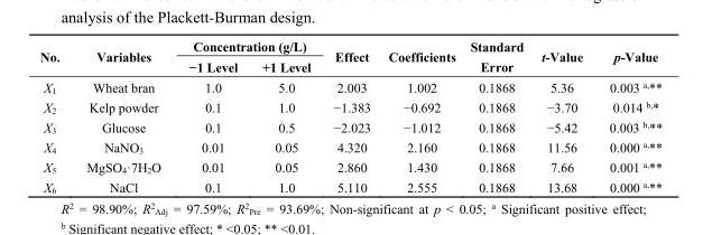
<table><thead><tr><td rowspan="2">No.</td><td rowspan="2">Variables</td><td colspan="2">Concentration (g/L)</td><td rowspan="2">Effect</td><td rowspan="2">Coefficients</td><td rowspan="2">Standard Error</td><td rowspan="2">t-Value</td><td rowspan="2">p-Value</td></tr><tr><td>−1 Level</td><td>+1 Level</td></tr></thead><tbody><tr><td>X<sub>1</sub></td><td>Wheat bran</td><td>1.0</td><td>5.0</td><td>2.003</td><td>1.002</td><td>0.1868</td><td>5.36</td><td>0.003 <sup>a,</sup>**</td></tr><tr><td>X<sub>2</sub></td><td>Kelp powder</td><td>0.1</td><td>1.0</td><td>−1.383</td><td>−0.692</td><td>0.1868</td><td>−3.70</td><td>0.014 <sup>b,</sup>*</td></tr><tr><td>X<sub>3</sub></td><td>Glucose</td><td>0.1</td><td>0.5</td><td>−2.023</td><td>−1.012</td><td>0.1868</td><td>−5.42</td><td>0.003 <sup>b,</sup>**</td></tr><tr><td>X<sub>4</sub></td><td>NaNO<sub>3</sub></td><td>0.01</td><td>0.05</td><td>4.320</td><td>2.160</td><td>0.1868</td><td>11.56</td><td>0.000 <sup>a,</sup>**</td></tr><tr><td>X<sub>5</sub></td><td>MgSO<sub>4</sub>·7H<sub>2</sub>O</td><td>0.01</td><td>0.05</td><td>2.860</td><td>1.430</td><td>0.1868</td><td>7.66</td><td>0.001 <sup>a,</sup>**</td></tr><tr><td>X<sub>6</sub></td><td>NaCl</td><td>0.1</td><td>1.0</td><td>5.110</td><td>2.555</td><td>0.1868</td><td>13.68</td><td>0.000 <sup>a,</sup>**</td></tr></tbody></table>